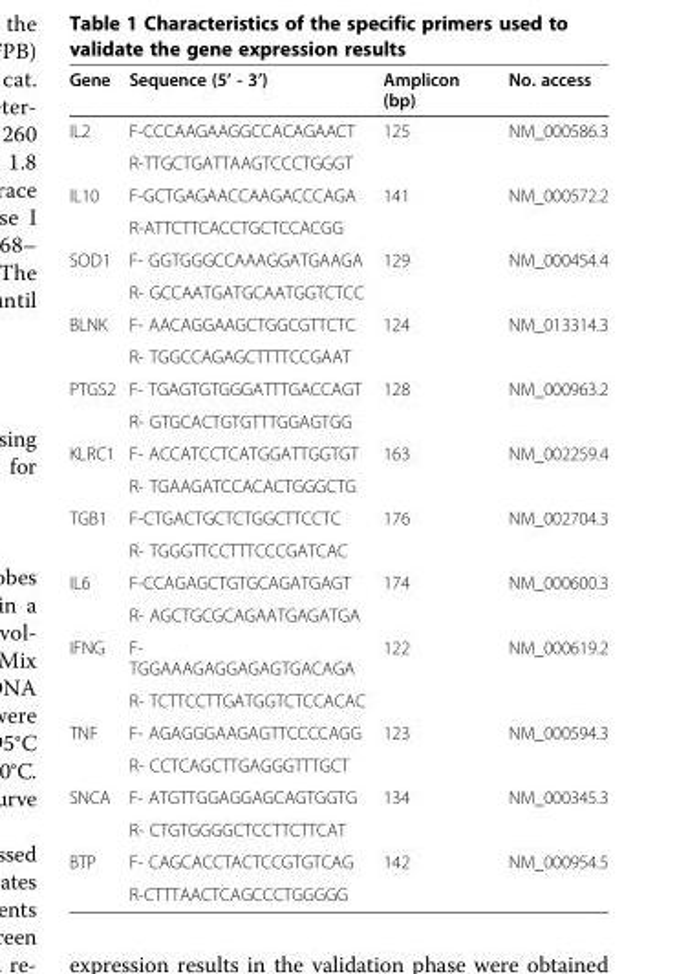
<table><thead><tr><td>Gene</td><td>Sequence (5’ - 3’)</td><td>Amplicon (bp)</td><td>No. access</td></tr></thead><tbody><tr><td rowspan="2">IL2</td><td>F-CCCAAGAAGGCCACAGAACT</td><td rowspan="2">125</td><td rowspan="2">NM_000586.3</td></tr><tr><td>R-TTGCTGATTAAGTCCCTGGGT</td></tr><tr><td rowspan="2">IL10</td><td>F-GCTGAGAACCAAGACCCAGA</td><td rowspan="2">141</td><td rowspan="2">NM_000572.2</td></tr><tr><td>R-ATTCTTCACCTGCTCCACGG</td></tr><tr><td rowspan="2">SOD1</td><td>F- GGTGGGCCAAAGGATGAAGA</td><td rowspan="2">129</td><td rowspan="2">NM_000454.4</td></tr><tr><td>R- GCCAATGATGCAATGGTCTCC</td></tr><tr><td rowspan="2">BLNK</td><td>F- AACAGGAAGCTGGCGTTCTC</td><td rowspan="2">124</td><td rowspan="2">NM_013314.3</td></tr><tr><td>R- TGGCCAGAGCTTTTCCGAAT</td></tr><tr><td rowspan="2">PTGS2</td><td>F- TGAGTGTGGGATTTGACCAGT</td><td rowspan="2">128</td><td rowspan="2">NM_000963.2</td></tr><tr><td>R- GTGCACTGTGTTTGGAGTGG</td></tr><tr><td rowspan="2">KLRC1</td><td>F- ACCATCCTCATGGATTGGTGT</td><td rowspan="2">163</td><td rowspan="2">NM_002259.4</td></tr><tr><td>R- TGAAGATCCACACTGGGCTG</td></tr><tr><td rowspan="2">TGB1</td><td>F-CTGACTGCTCTGGCTTCCTC</td><td rowspan="2">176</td><td rowspan="2">NM_002704.3</td></tr><tr><td>R- TGGGTTCCTTTCCCGATCAC</td></tr><tr><td rowspan="2">IL6</td><td>F-CCAGAGCTGTGCAGATGAGT</td><td rowspan="2">174</td><td rowspan="2">NM_000600.3</td></tr><tr><td>R- AGCTGCGCAGAATGAGATGA</td></tr><tr><td rowspan="2">IFNG</td><td>F- TGGAAAGAGGAGAGTGACAGA</td><td rowspan="2">122</td><td rowspan="2">NM_000619.2</td></tr><tr><td>R- TCTTCCTTGATGGTCTCCACAC</td></tr><tr><td rowspan="2">TNF</td><td>F- AGAGGGAAGAGTTCCCCAGG</td><td rowspan="2">123</td><td rowspan="2">NM_000594.3</td></tr><tr><td>R- CCTCAGCTTGAGGGTTTGCT</td></tr><tr><td rowspan="2">SNCA</td><td>F- ATGTTGGAGGAGCAGTGGTG</td><td rowspan="2">134</td><td rowspan="2">NM_000345.3</td></tr><tr><td>R- CTGTGGGGCTCCTTCTTCAT</td></tr><tr><td rowspan="2">BTP</td><td>F- CAGCACCTACTCCGTGTCAG</td><td rowspan="2">142</td><td rowspan="2">NM_000954.5</td></tr><tr><td>R-CTTTAACTCAGCCCTGGGGG</td></tr></tbody></table>